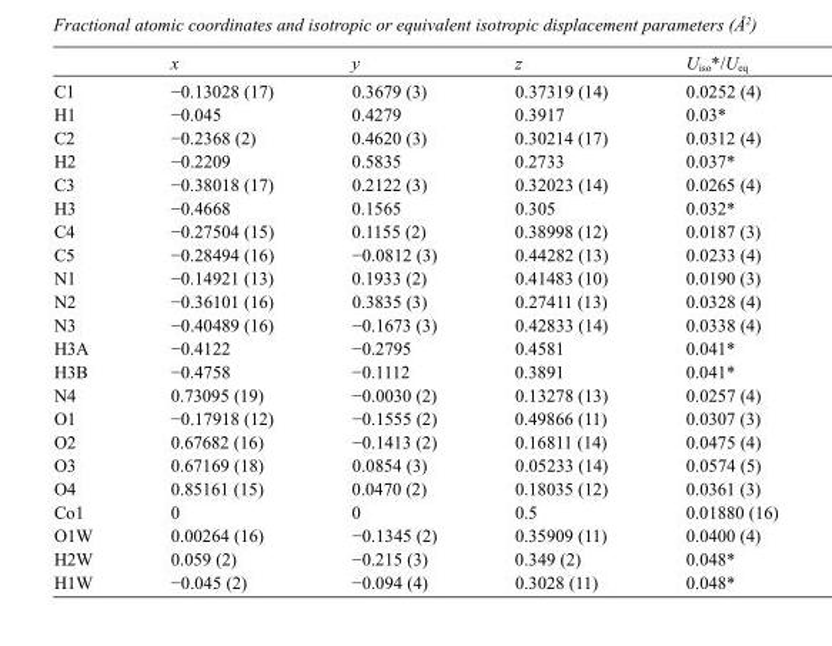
<table><thead><tr><td></td><td>x</td><td>y</td><td>z</td><td>U<sub>iso</sub>*/U<sub>eq</sub></td></tr></thead><tbody><tr><td>C1</td><td>−0.13028 (17)</td><td>0.3679 (3)</td><td>0.37319 (14)</td><td>0.0252 (4)</td></tr><tr><td>H1</td><td>−0.045</td><td>0.4279</td><td>0.3917</td><td>0.03*</td></tr><tr><td>C2</td><td>−0.2368 (2)</td><td>0.4620 (3)</td><td>0.30214 (17)</td><td>0.0312 (4)</td></tr><tr><td>H2</td><td>−0.2209</td><td>0.5835</td><td>0.2733</td><td>0.037*</td></tr><tr><td>C3</td><td>−0.38018 (17)</td><td>0.2122 (3)</td><td>0.32023 (14)</td><td>0.0265 (4)</td></tr><tr><td>H3</td><td>−0.4668</td><td>0.1565</td><td>0.305</td><td>0.032*</td></tr><tr><td>C4</td><td>−0.27504 (15)</td><td>0.1155 (2)</td><td>0.38998 (12)</td><td>0.0187 (3)</td></tr><tr><td>C5</td><td>−0.28494 (16)</td><td>−0.0812 (3)</td><td>0.44282 (13)</td><td>0.0233 (4)</td></tr><tr><td>N1</td><td>−0.14921 (13)</td><td>0.1933 (2)</td><td>0.41483 (10)</td><td>0.0190 (3)</td></tr><tr><td>N2</td><td>−0.36101 (16)</td><td>0.3835 (3)</td><td>0.27411 (13)</td><td>0.0328 (4)</td></tr><tr><td>N3</td><td>−0.40489 (16)</td><td>−0.1673 (3)</td><td>0.42833 (14)</td><td>0.0338 (4)</td></tr><tr><td>H3A</td><td>−0.4122</td><td>−0.2795</td><td>0.4581</td><td>0.041*</td></tr><tr><td>H3B</td><td>−0.4758</td><td>−0.1112</td><td>0.3891</td><td>0.041*</td></tr><tr><td>N4</td><td>0.73095 (19)</td><td>−0.0030 (2)</td><td>0.13278 (13)</td><td>0.0257 (4)</td></tr><tr><td>O1</td><td>−0.17918 (12)</td><td>−0.1555 (2)</td><td>0.49866 (11)</td><td>0.0307 (3)</td></tr><tr><td>O2</td><td>0.67682 (16)</td><td>−0.1413 (2)</td><td>0.16811 (14)</td><td>0.0475 (4)</td></tr><tr><td>O3</td><td>0.67169 (18)</td><td>0.0854 (3)</td><td>0.05233 (14)</td><td>0.0574 (5)</td></tr><tr><td>O4</td><td>0.85161 (15)</td><td>0.0470 (2)</td><td>0.18035 (12)</td><td>0.0361 (3)</td></tr><tr><td>Co1</td><td>0</td><td>0</td><td>0.5</td><td>0.01880 (16)</td></tr><tr><td>O1W</td><td>0.00264 (16)</td><td>−0.1345 (2)</td><td>0.35909 (11)</td><td>0.0400 (4)</td></tr><tr><td>H2W</td><td>0.059 (2)</td><td>−0.215 (3)</td><td>0.349 (2)</td><td>0.048*</td></tr><tr><td>H1W</td><td>−0.045 (2)</td><td>−0.094 (4)</td><td>0.3028 (11)</td><td>0.048*</td></tr></tbody></table>